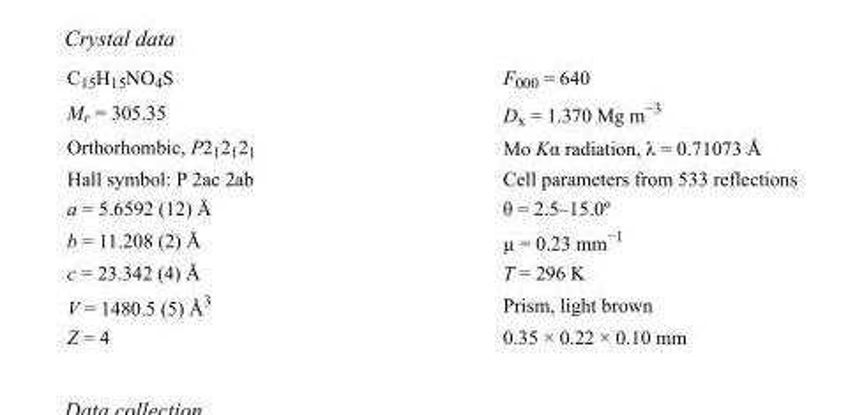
<table><tbody><tr><td>C<sub>15</sub>H<sub>15</sub>NO<sub>4</sub>S</td><td>F000 = 640</td></tr><tr><td>M<sub>r</sub> = 305.35</td><td>D<sub>x</sub> = 1.370 Mg m<sup>−3</sup></td></tr><tr><td>Orthorhombic, P2<sub>1</sub>2<sub>1</sub>2<sub>1</sub></td><td>Mo Kα radiation, λ = 0.71073 Å</td></tr><tr><td>Hall symbol: P 2ac 2ab</td><td>Cell parameters from 533 reflections</td></tr><tr><td>a = 5.6592 (12) Å</td><td>θ = 2.5–15.0º</td></tr><tr><td>b = 11.208 (2) Å</td><td>µ = 0.23 mm<sup>−1</sup></td></tr><tr><td>c = 23.342 (4) Å</td><td>T = 296 K</td></tr><tr><td>V = 1480.5 (5) Å<sup>3</sup></td><td>Prism, light brown</td></tr><tr><td>Z = 4</td><td>0.35 × 0.22 × 0.10 mm</td></tr></tbody></table>